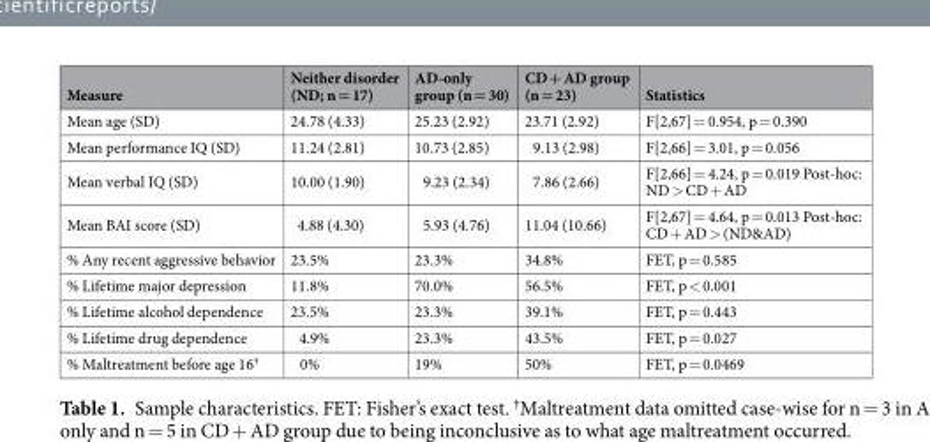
<table><thead><tr><td>Measure</td><td>Neither disorder (ND; n = 17)</td><td>AD-only group (n = 30)</td><td>CD + AD group (n = 23)</td><td>Statistics</td></tr></thead><tbody><tr><td>Mean age (SD)</td><td>24.78 (4.33)</td><td>25.23 (2.92)</td><td>23.71 (2.92)</td><td>F[2,67] = 0.954, p = 0.390</td></tr><tr><td>Mean performance IQ (SD)</td><td>11.24 (2.81)</td><td>10.73 (2.85)</td><td>9.13 (2.98)</td><td>F[2,66] = 3.01, p = 0.056</td></tr><tr><td>Mean verbal IQ (SD)</td><td>10.00 (1.90)</td><td>9.23 (2.34)</td><td>7.86 (2.66)</td><td>F[2,66] = 4.24, p = 0.019 Post-hoc: ND &gt; CD + AD</td></tr><tr><td>Mean BAI score (SD)</td><td>4.88 (4.30)</td><td>5.93 (4.76)</td><td>11.04 (10.66)</td><td>F[2,67] = 4.64, p = 0.013 Post-hoc: CD + AD &gt; (ND&amp;AD)</td></tr><tr><td>% Any recent aggressive behavior</td><td>23.5%</td><td>23.3%</td><td>34.8%</td><td>FET, p = 0.585</td></tr><tr><td>% Lifetime major depression</td><td>11.8%</td><td>70.0%</td><td>56.5%</td><td>FET, p &lt; 0.001</td></tr><tr><td>% Lifetime alcohol dependence</td><td>23.5%</td><td>23.3%</td><td>39.1%</td><td>FET, p = 0.443</td></tr><tr><td>% Lifetime drug dependence</td><td>4.9%</td><td>23.3%</td><td>43.5%</td><td>FET, p = 0.027</td></tr><tr><td>% Maltreatment before age 16<sup>†</sup></td><td>0%</td><td>19%</td><td>50%</td><td>FET, p = 0.0469</td></tr></tbody></table>